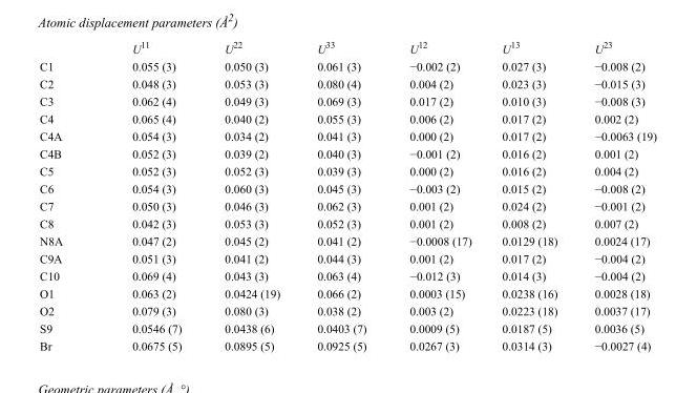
<table><thead><tr><td></td><td>U<sup>11</sup></td><td>U<sup>22</sup></td><td>U<sup>33</sup></td><td>U<sup>12</sup></td><td>U<sup>13</sup></td><td>U<sup>23</sup></td></tr></thead><tbody><tr><td>C1</td><td>0.055 (3)</td><td>0.050 (3)</td><td>0.061 (3)</td><td>−0.002 (2)</td><td>0.027 (3)</td><td>−0.008 (2)</td></tr><tr><td>C2</td><td>0.048 (3)</td><td>0.053 (3)</td><td>0.080 (4)</td><td>0.004 (2)</td><td>0.023 (3)</td><td>−0.015 (3)</td></tr><tr><td>C3</td><td>0.062 (4)</td><td>0.049 (3)</td><td>0.069 (3)</td><td>0.017 (2)</td><td>0.010 (3)</td><td>−0.008 (3)</td></tr><tr><td>C4</td><td>0.065 (4)</td><td>0.040 (2)</td><td>0.055 (3)</td><td>0.006 (2)</td><td>0.017 (2)</td><td>0.002 (2)</td></tr><tr><td>C4A</td><td>0.054 (3)</td><td>0.034 (2)</td><td>0.041 (3)</td><td>0.000 (2)</td><td>0.017 (2)</td><td>−0.0063 (19)</td></tr><tr><td>C4B</td><td>0.052 (3)</td><td>0.039 (2)</td><td>0.040 (3)</td><td>−0.001 (2)</td><td>0.016 (2)</td><td>0.001 (2)</td></tr><tr><td>C5</td><td>0.052 (3)</td><td>0.052 (3)</td><td>0.039 (3)</td><td>0.000 (2)</td><td>0.016 (2)</td><td>0.004 (2)</td></tr><tr><td>C6</td><td>0.054 (3)</td><td>0.060 (3)</td><td>0.045 (3)</td><td>−0.003 (2)</td><td>0.015 (2)</td><td>−0.008 (2)</td></tr><tr><td>C7</td><td>0.050 (3)</td><td>0.046 (3)</td><td>0.062 (3)</td><td>0.001 (2)</td><td>0.024 (2)</td><td>−0.001 (2)</td></tr><tr><td>C8</td><td>0.042 (3)</td><td>0.053 (3)</td><td>0.052 (3)</td><td>0.001 (2)</td><td>0.008 (2)</td><td>0.007 (2)</td></tr><tr><td>N8A</td><td>0.047 (2)</td><td>0.045 (2)</td><td>0.041 (2)</td><td>−0.0008 (17)</td><td>0.0129 (18)</td><td>0.0024 (17)</td></tr><tr><td>C9A</td><td>0.051 (3)</td><td>0.041 (2)</td><td>0.044 (3)</td><td>0.001 (2)</td><td>0.017 (2)</td><td>−0.004 (2)</td></tr><tr><td>C10</td><td>0.069 (4)</td><td>0.043 (3)</td><td>0.063 (4)</td><td>−0.012 (3)</td><td>0.014 (3)</td><td>−0.004 (2)</td></tr><tr><td>O1</td><td>0.063 (2)</td><td>0.0424 (19)</td><td>0.066 (2)</td><td>0.0003 (15)</td><td>0.0238 (16)</td><td>0.0028 (18)</td></tr><tr><td>O2</td><td>0.079 (3)</td><td>0.080 (3)</td><td>0.038 (2)</td><td>0.003 (2)</td><td>0.0223 (18)</td><td>0.0037 (17)</td></tr><tr><td>S9</td><td>0.0546 (7)</td><td>0.0438 (6)</td><td>0.0403 (7)</td><td>0.0009 (5)</td><td>0.0187 (5)</td><td>0.0036 (5)</td></tr><tr><td>Br</td><td>0.0675 (5)</td><td>0.0895 (5)</td><td>0.0925 (5)</td><td>0.0267 (3)</td><td>0.0314 (3)</td><td>−0.0027 (4)</td></tr></tbody></table>